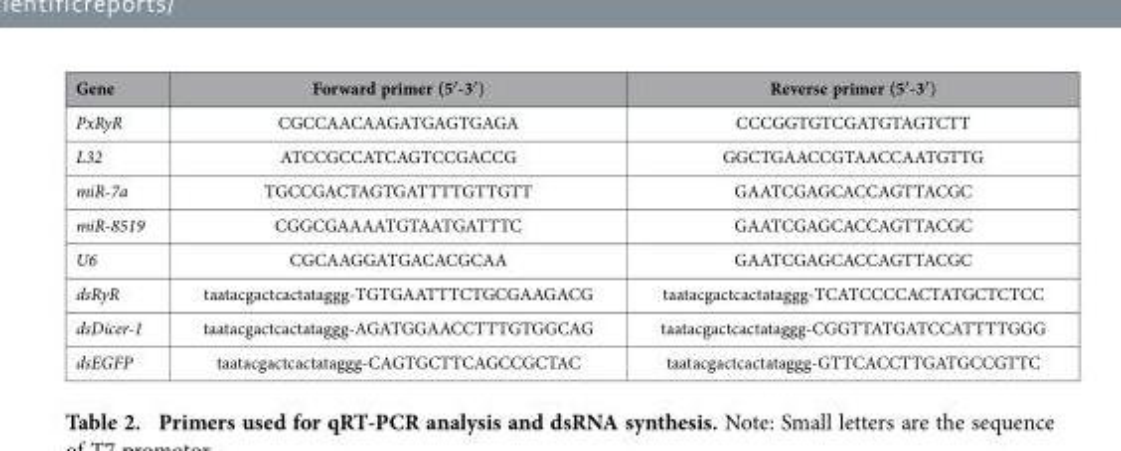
<table><thead><tr><td>Gene</td><td>Forward primer (5′ -3′ )</td><td>Reverse primer (5′ -3′ )</td></tr></thead><tbody><tr><td>PxRyR</td><td>CGCCAACAAGATGAGTGAGA</td><td>CCCGGTGTCGATGTAGTCTT</td></tr><tr><td>L32</td><td>ATCCGCCATCAGTCCGACCG</td><td>GGCTGAACCGTAACCAATGTTG</td></tr><tr><td>miR-7a</td><td>TGCCGACTAGTGATTTTGTTGTT</td><td>GAATCGAGCACCAGTTACGC</td></tr><tr><td>miR-8519</td><td>CGGCGAAAATGTAATGATTTC</td><td>GAATCGAGCACCAGTTACGC</td></tr><tr><td>U6</td><td>CGCAAGGATGACACGCAA</td><td>GAATCGAGCACCAGTTACGC</td></tr><tr><td>dsRyR</td><td>taatacgactcactataggg-TGTGAATTTCTGCGAAGACG</td><td>taatacgactcactataggg-TCATCCCCACTATGCTCTCC</td></tr><tr><td>dsDicer-1</td><td>taatacgactcactataggg-AGATGGAACCTTTGTGGCAG</td><td>taatacgactcactataggg-CGGTTATGATCCATTTTGGG</td></tr><tr><td>dsEGFP</td><td>taatacgactcactataggg-CAGTGCTTCAGCCGCTAC</td><td>taatacgactcactataggg-GTTCACCTTGATGCCGTTC</td></tr></tbody></table>